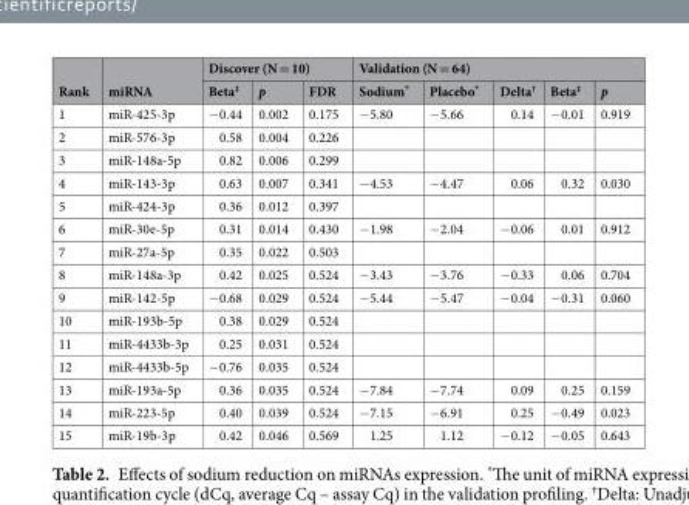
<table><thead><tr><td rowspan="2">Rank</td><td rowspan="2">miRNA</td><td colspan="3">Discover (N = 10)</td><td colspan="5">Validation (N = 64)</td></tr><tr><td>Beta<sup>‡</sup></td><td>p</td><td>FDR</td><td>Sodium*</td><td>Placebo*</td><td>Delta<sup>†</sup></td><td>Beta<sup>‡</sup></td><td>p</td></tr></thead><tbody><tr><td>1</td><td>miR-425-3p</td><td>−0.44</td><td>0.002</td><td>0.175</td><td>−5.80</td><td>−5.66</td><td>0.14</td><td>−0.01</td><td>0.919</td></tr><tr><td>2</td><td>miR-576-3p</td><td>0.58</td><td>0.004</td><td>0.226</td><td></td><td></td><td></td><td></td><td></td></tr><tr><td>3</td><td>miR-148a-5p</td><td>0.82</td><td>0.006</td><td>0.299</td><td></td><td></td><td></td><td></td><td></td></tr><tr><td>4</td><td>miR-143-3p</td><td>0.63</td><td>0.007</td><td>0.341</td><td>−4.53</td><td>−4.47</td><td>0.06</td><td>0.32</td><td>0.030</td></tr><tr><td>5</td><td>miR-424-3p</td><td>0.36</td><td>0.012</td><td>0.397</td><td></td><td></td><td></td><td></td><td></td></tr><tr><td>6</td><td>miR-30e-5p</td><td>0.31</td><td>0.014</td><td>0.430</td><td>−1.98</td><td>−2.04</td><td>−0.06</td><td>0.01</td><td>0.912</td></tr><tr><td>7</td><td>miR-27a-5p</td><td>0.35</td><td>0.022</td><td>0.503</td><td></td><td></td><td></td><td></td><td></td></tr><tr><td>8</td><td>miR-148a-3p</td><td>0.42</td><td>0.025</td><td>0.524</td><td>−3.43</td><td>−3.76</td><td>−0.33</td><td>0.06</td><td>0.704</td></tr><tr><td>9</td><td>miR-142-5p</td><td>−0.68</td><td>0.029</td><td>0.524</td><td>−5.44</td><td>−5.47</td><td>−0.04</td><td>−0.31</td><td>0.060</td></tr><tr><td>10</td><td>miR-193b-5p</td><td>0.38</td><td>0.029</td><td>0.524</td><td></td><td></td><td></td><td></td><td></td></tr><tr><td>11</td><td>miR-4433b-3p</td><td>0.25</td><td>0.031</td><td>0.524</td><td></td><td></td><td></td><td></td><td></td></tr><tr><td>12</td><td>miR-4433b-5p</td><td>−0.76</td><td>0.035</td><td>0.524</td><td></td><td></td><td></td><td></td><td></td></tr><tr><td>13</td><td>miR-193a-5p</td><td>0.36</td><td>0.035</td><td>0.524</td><td>−7.84</td><td>−7.74</td><td>0.09</td><td>0.25</td><td>0.159</td></tr><tr><td>14</td><td>miR-223-5p</td><td>0.40</td><td>0.039</td><td>0.524</td><td>−7.15</td><td>−6.91</td><td>0.25</td><td>−0.49</td><td>0.023</td></tr><tr><td>15</td><td>miR-19b-3p</td><td>0.42</td><td>0.046</td><td>0.569</td><td>1.25</td><td>1.12</td><td>−0.12</td><td>−0.05</td><td>0.643</td></tr></tbody></table>